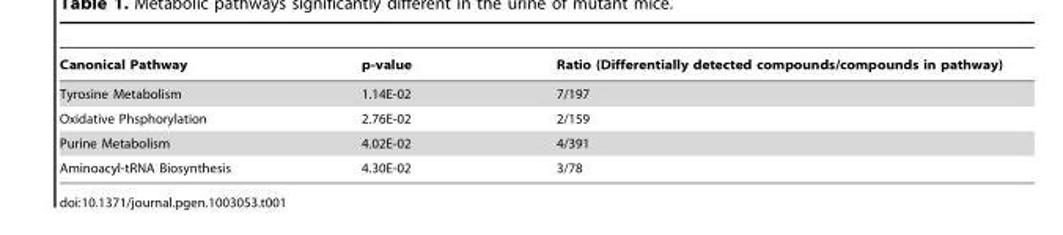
<table><thead><tr><td>Canonical Pathway</td><td>p-value</td><td>Ratio (Differentially detected compounds/compounds in pathway)</td></tr></thead><tbody><tr><td>Tyrosine Metabolism</td><td>1.14E-02</td><td>7/197</td></tr><tr><td>Oxidative Phsphorylation</td><td>2.76E-02</td><td>2/159</td></tr><tr><td>Purine Metabolism</td><td>4.02E-02</td><td>4/391</td></tr><tr><td>Aminoacyl-tRNA Biosynthesis</td><td>4.30E-02</td><td>3/78</td></tr></tbody></table>